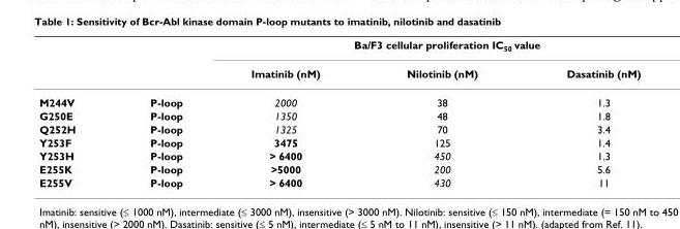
<table><thead><tr><td rowspan="2"></td><td rowspan="2"></td><td colspan="3">Ba/F3 cellular proliferation IC<sub>50</sub> value</td></tr><tr><td>Imatinib (nM)</td><td>Nilotinib (nM)</td><td>Dasatinib (nM)</td></tr></thead><tbody><tr><td>M244V</td><td>P-loop</td><td>2000</td><td>38</td><td>1.3</td></tr><tr><td>G250E</td><td>P-loop</td><td>1350</td><td>48</td><td>1.8</td></tr><tr><td>Q252H</td><td>P-loop</td><td>1325</td><td>70</td><td>3.4</td></tr><tr><td>Y253F</td><td>P-loop</td><td>3475</td><td>125</td><td>1.4</td></tr><tr><td>Y253H</td><td>P-loop</td><td>&gt; 6400</td><td>450</td><td>1.3</td></tr><tr><td>E255K</td><td>P-loop</td><td>&gt;5000</td><td>200</td><td>5.6</td></tr><tr><td>E255V</td><td>P-loop</td><td>&gt; 6400</td><td>430</td><td>11</td></tr></tbody></table>